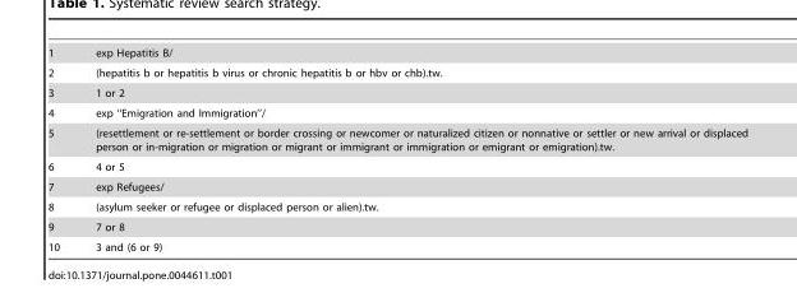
<table><tbody><tr><td>1</td><td>exp Hepatitis B/</td></tr><tr><td>2</td><td>(hepatitis b or hepatitis b virus or chronic hepatitis b or hbv or chb).tw.</td></tr><tr><td>3</td><td>1 or 2</td></tr><tr><td>4</td><td>exp ‘‘Emigration and Immigration’’/</td></tr><tr><td>5</td><td>(resettlement or re-settlement or border crossing or newcomer or naturalized citizen or nonnative or settler or new arrival or displaced person or in-migration or migration or migrant or immigrant or immigration or emigrant or emigration).tw.</td></tr><tr><td>6</td><td>4 or 5</td></tr><tr><td>7</td><td>exp Refugees/</td></tr><tr><td>8</td><td>(asylum seeker or refugee or displaced person or alien).tw.</td></tr><tr><td>9</td><td>7 or 8</td></tr><tr><td>10</td><td>3 and (6 or 9)</td></tr></tbody></table>